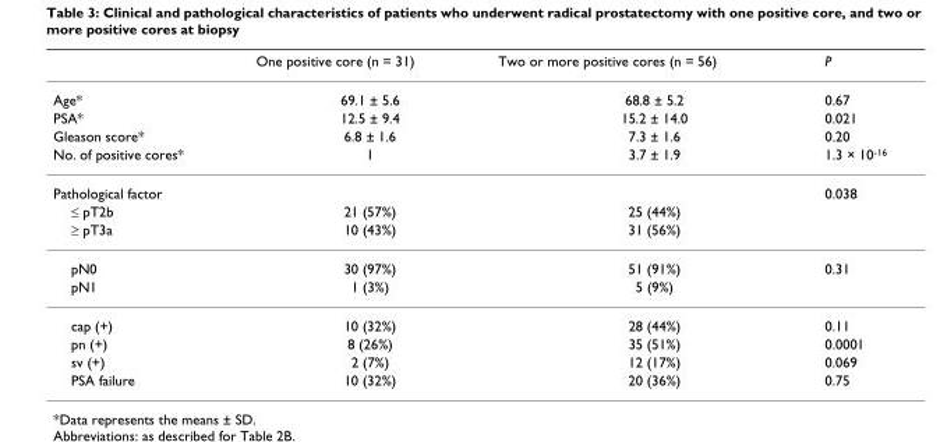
<table><thead><tr><td></td><td>One positive core (n = 31)</td><td>Two or more positive cores (n = 56)</td><td>P</td></tr></thead><tbody><tr><td>Age*</td><td>69.1 ± 5.6</td><td>68.8 ± 5.2</td><td>0.67</td></tr><tr><td>PSA*</td><td>12.5 ± 9.4</td><td>15.2 ± 14.0</td><td>0.021</td></tr><tr><td>Gleason score*</td><td>6.8 ± 1.6</td><td>7.3 ± 1.6</td><td>0.20</td></tr><tr><td>No. of positive cores*</td><td>1</td><td>3.7 ± 1.9</td><td>1.3 × 10<sup>-16</sup></td></tr><tr><td>Pathological factor</td><td></td><td></td><td>0.038</td></tr><tr><td>≤ pT2b</td><td>21 (57%)</td><td>25 (44%)</td><td></td></tr><tr><td>≥ pT3a</td><td>10 (43%)</td><td>31 (56%)</td><td></td></tr><tr><td>pN0</td><td>30 (97%)</td><td>51 (91%)</td><td>0.31</td></tr><tr><td>pN1</td><td>1 (3%)</td><td>5 (9%)</td><td></td></tr><tr><td>cap (+)</td><td>10 (32%)</td><td>28 (44%)</td><td>0.11</td></tr><tr><td>pn (+)</td><td>8 (26%)</td><td>35 (51%)</td><td>0.0001</td></tr><tr><td>sv (+)</td><td>2 (7%)</td><td>12 (17%)</td><td>0.069</td></tr><tr><td>PSA failure</td><td>10 (32%)</td><td>20 (36%)</td><td>0.75</td></tr></tbody></table>